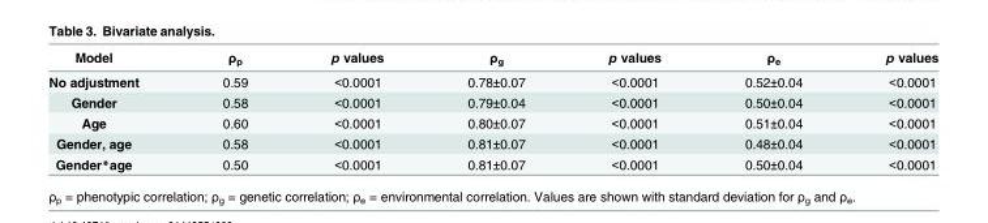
<table><thead><tr><td>Model</td><td>ρ<sub>p</sub></td><td>p values</td><td>ρ<sub>g</sub></td><td>p values</td><td>ρ<sub>e</sub></td><td>p values</td></tr></thead><tbody><tr><td>No adjustment</td><td>0.59</td><td>&lt;0.0001</td><td>0.78±0.07</td><td>&lt;0.0001</td><td>0.52±0.04</td><td>&lt;0.0001</td></tr><tr><td>Gender</td><td>0.58</td><td>&lt;0.0001</td><td>0.79±0.04</td><td>&lt;0.0001</td><td>0.50±0.04</td><td>&lt;0.0001</td></tr><tr><td>Age</td><td>0.60</td><td>&lt;0.0001</td><td>0.80±0.07</td><td>&lt;0.0001</td><td>0.51±0.04</td><td>&lt;0.0001</td></tr><tr><td>Gender, age</td><td>0.58</td><td>&lt;0.0001</td><td>0.81±0.07</td><td>&lt;0.0001</td><td>0.48±0.04</td><td>&lt;0.0001</td></tr><tr><td>Gender*age</td><td>0.50</td><td>&lt;0.0001</td><td>0.81±0.07</td><td>&lt;0.0001</td><td>0.50±0.04</td><td>&lt;0.0001</td></tr></tbody></table>